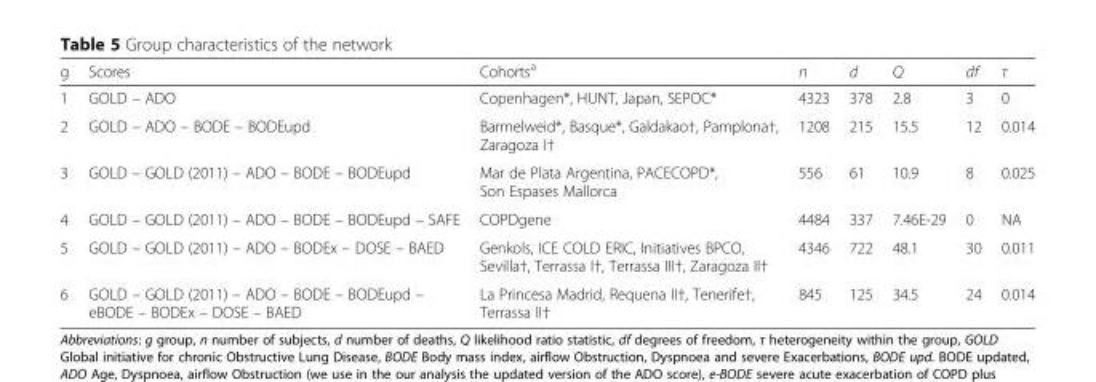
<table><thead><tr><td>g</td><td>Scores</td><td>Cohorts<sup>a</sup></td><td>n</td><td>d</td><td>Q</td><td>df</td><td>τ</td></tr></thead><tbody><tr><td>1</td><td>GOLD – ADO</td><td>Copenhagen*, HUNT, Japan, SEPOC*</td><td>4323</td><td>378</td><td>2.8</td><td>3</td><td>0</td></tr><tr><td>2</td><td>GOLD – ADO – BODE – BODEupd</td><td>Barmelweid*, Basque*, Galdakao†, Pamplona†, Zaragoza I†</td><td>1208</td><td>215</td><td>15.5</td><td>12</td><td>0.014</td></tr><tr><td>3</td><td>GOLD – GOLD (2011) – ADO – BODE – BODEupd</td><td>Mar de Plata Argentina, PACECOPD*, Son Espases Mallorca</td><td>556</td><td>61</td><td>10.9</td><td>8</td><td>0.025</td></tr><tr><td>4</td><td>GOLD – GOLD (2011) – ADO – BODE – BODEupd – SAFE</td><td>COPDgene</td><td>4484</td><td>337</td><td>7.46E-29</td><td>0</td><td>NA</td></tr><tr><td>5</td><td>GOLD – GOLD (2011) – ADO – BODEx – DOSE – BAED</td><td>Genkols, ICE COLD ERIC, Initiatives BPCO, Sevilla†, Terrassa I†, Terrassa III†, Zaragoza II†</td><td>4346</td><td>722</td><td>48.1</td><td>30</td><td>0.011</td></tr><tr><td>6</td><td>GOLD – GOLD (2011) – ADO – BODE – BODEupd – eBODE – BODEx – DOSE – BAED</td><td>La Princesa Madrid, Requena II†, Tenerife†, Terrassa II†</td><td>845</td><td>125</td><td>34.5</td><td>24</td><td>0.014</td></tr></tbody></table>